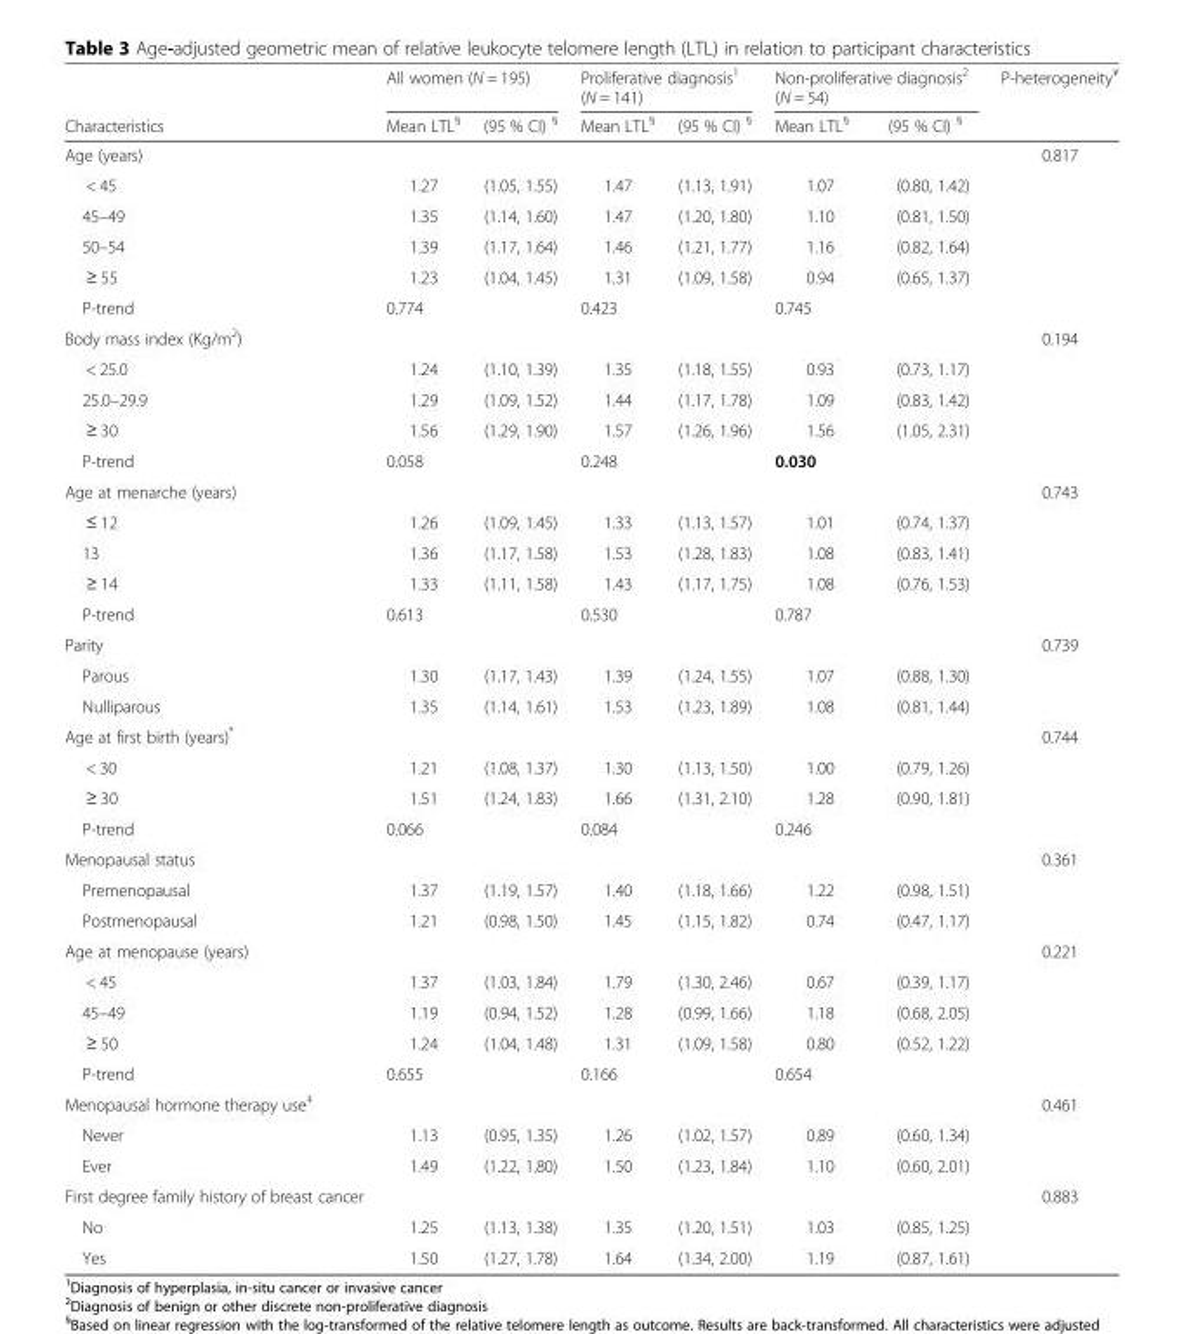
<table><thead><tr><td rowspan="2">Characteristics</td><td colspan="2">All women (N = 195)</td><td colspan="2">Proliferative diagnosis<sup>1</sup> (N = 141)</td><td colspan="2">Non-proliferative diagnosis<sup>2</sup> (N = 54)</td><td rowspan="2">P-heterogeneity<sup>¥</sup></td></tr><tr><td>Mean LTL<sup>§</sup></td><td>(95 % CI) <sup>§</sup></td><td>Mean LTL<sup>§</sup></td><td>(95 % CI) <sup>§</sup></td><td>Mean LTL<sup>§</sup></td><td>(95 % CI) <sup>§</sup></td></tr></thead><tbody><tr><td>Age (years)</td><td></td><td></td><td></td><td></td><td></td><td></td><td>0.817</td></tr><tr><td>&lt; 45</td><td>1.27</td><td>(1.05, 1.55)</td><td>1.47</td><td>(1.13, 1.91)</td><td>1.07</td><td>(0.80, 1.42)</td><td></td></tr><tr><td>45–49</td><td>1.35</td><td>(1.14, 1.60)</td><td>1.47</td><td>(1.20, 1.80)</td><td>1.10</td><td>(0.81, 1.50)</td><td></td></tr><tr><td>50–54</td><td>1.39</td><td>(1.17, 1.64)</td><td>1.46</td><td>(1.21, 1.77)</td><td>1.16</td><td>(0.82, 1.64)</td><td></td></tr><tr><td>≥ 55</td><td>1.23</td><td>(1.04, 1.45)</td><td>1.31</td><td>(1.09, 1.58)</td><td>0.94</td><td>(0.65, 1.37)</td><td></td></tr><tr><td>P-trend</td><td colspan="2">0.774</td><td colspan="2">0.423</td><td colspan="2">0.745</td><td></td></tr><tr><td>Body mass index (Kg/m<sup>2</sup>)</td><td></td><td></td><td></td><td></td><td></td><td></td><td>0.194</td></tr><tr><td>&lt; 25.0</td><td>1.24</td><td>(1.10, 1.39)</td><td>1.35</td><td>(1.18, 1.55)</td><td>0.93</td><td>(0.73, 1.17)</td><td></td></tr><tr><td>25.0–29.9</td><td>1.29</td><td>(1.09, 1.52)</td><td>1.44</td><td>(1.17, 1.78)</td><td>1.09</td><td>(0.83, 1.42)</td><td></td></tr><tr><td>≥ 30</td><td>1.56</td><td>(1.29, 1.90)</td><td>1.57</td><td>(1.26, 1.96)</td><td>1.56</td><td>(1.05, 2.31)</td><td></td></tr><tr><td>P-trend</td><td colspan="2">0.058</td><td colspan="2">0.248</td><td colspan="2">0.030</td><td></td></tr><tr><td>Age at menarche (years)</td><td></td><td></td><td></td><td></td><td></td><td></td><td>0.743</td></tr><tr><td>≤ 12</td><td>1.26</td><td>(1.09, 1.45)</td><td>1.33</td><td>(1.13, 1.57)</td><td>1.01</td><td>(0.74, 1.37)</td><td></td></tr><tr><td>13</td><td>1.36</td><td>(1.17, 1.58)</td><td>1.53</td><td>(1.28, 1.83)</td><td>1.08</td><td>(0.83, 1.41)</td><td></td></tr><tr><td>≥ 14</td><td>1.33</td><td>(1.11, 1.58)</td><td>1.43</td><td>(1.17, 1.75)</td><td>1.08</td><td>(0.76, 1.53)</td><td></td></tr><tr><td>P-trend</td><td colspan="2">0.613</td><td colspan="2">0.530</td><td colspan="2">0.787</td><td></td></tr><tr><td>Parity</td><td></td><td></td><td></td><td></td><td></td><td></td><td>0.739</td></tr><tr><td>Parous</td><td>1.30</td><td>(1.17, 1.43)</td><td>1.39</td><td>(1.24, 1.55)</td><td>1.07</td><td>(0.88, 1.30)</td><td></td></tr><tr><td>Nulliparous</td><td>1.35</td><td>(1.14, 1.61)</td><td>1.53</td><td>(1.23, 1.89)</td><td>1.08</td><td>(0.81, 1.44)</td><td></td></tr><tr><td>Age at first birth (years)*</td><td></td><td></td><td></td><td></td><td></td><td></td><td>0.744</td></tr><tr><td>&lt; 30</td><td>1.21</td><td>(1.08, 1.37)</td><td>1.30</td><td>(1.13, 1.50)</td><td>1.00</td><td>(0.79, 1.26)</td><td></td></tr><tr><td>≥ 30</td><td>1.51</td><td>(1.24, 1.83)</td><td>1.66</td><td>(1.31, 2.10)</td><td>1.28</td><td>(0.90, 1.81)</td><td></td></tr><tr><td>P-trend</td><td colspan="2">0.066</td><td colspan="2">0.084</td><td colspan="2">0.246</td><td></td></tr><tr><td>Menopausal status</td><td></td><td></td><td></td><td></td><td></td><td></td><td>0.361</td></tr><tr><td>Premenopausal</td><td>1.37</td><td>(1.19, 1.57)</td><td>1.40</td><td>(1.18, 1.66)</td><td>1.22</td><td>(0.98, 1.51)</td><td></td></tr><tr><td>Postmenopausal</td><td>1.21</td><td>(0.98, 1.50)</td><td>1.45</td><td>(1.15, 1.82)</td><td>0.74</td><td>(0.47, 1.17)</td><td></td></tr><tr><td>Age at menopause (years)</td><td></td><td></td><td></td><td></td><td></td><td></td><td>0.221</td></tr><tr><td>&lt; 45</td><td>1.37</td><td>(1.03, 1.84)</td><td>1.79</td><td>(1.30, 2.46)</td><td>0.67</td><td>(0.39, 1.17)</td><td></td></tr><tr><td>45–49</td><td>1.19</td><td>(0.94, 1.52)</td><td>1.28</td><td>(0.99, 1.66)</td><td>1.18</td><td>(0.68, 2.05)</td><td></td></tr><tr><td>≥ 50</td><td>1.24</td><td>(1.04, 1.48)</td><td>1.31</td><td>(1.09, 1.58)</td><td>0.80</td><td>(0.52, 1.22)</td><td></td></tr><tr><td>P-trend</td><td colspan="2">0.655</td><td colspan="2">0.166</td><td colspan="2">0.654</td><td></td></tr><tr><td>Menopausal hormone therapy use<sup>‡</sup></td><td></td><td></td><td></td><td></td><td></td><td></td><td>0.461</td></tr><tr><td>Never</td><td>1.13</td><td>(0.95, 1.35)</td><td>1.26</td><td>(1.02, 1.57)</td><td>0.89</td><td>(0.60, 1.34)</td><td></td></tr><tr><td>Ever</td><td>1.49</td><td>(1.22, 1.80)</td><td>1.50</td><td>(1.23, 1.84)</td><td>1.10</td><td>(0.60, 2.01)</td><td></td></tr><tr><td>First degree family history of breast cancer</td><td></td><td></td><td></td><td></td><td></td><td></td><td>0.883</td></tr><tr><td>No</td><td>1.25</td><td>(1.13, 1.38)</td><td>1.35</td><td>(1.20, 1.51)</td><td>1.03</td><td>(0.85, 1.25)</td><td></td></tr><tr><td>Yes</td><td>1.50</td><td>(1.27, 1.78)</td><td>1.64</td><td>(1.34, 2.00)</td><td>1.19</td><td>(0.87, 1.61)</td><td></td></tr></tbody></table>